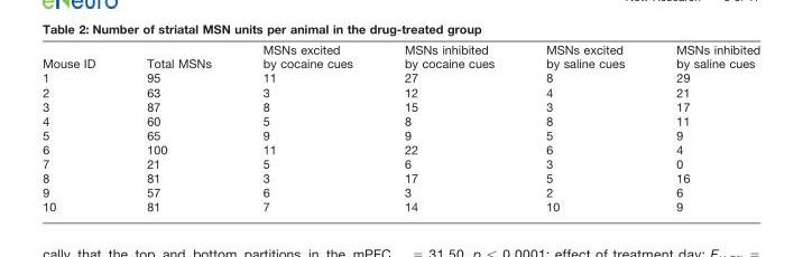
<table><thead><tr><td>Mouse ID</td><td>Total MSNs</td><td>MSNs excited by cocaine cues</td><td>MSNs inhibited by cocaine cues</td><td>MSNs excited by saline cues</td><td>MSNs inhibited by saline cues</td></tr></thead><tbody><tr><td>1</td><td>95</td><td>11</td><td>27</td><td>8</td><td>29</td></tr><tr><td>2</td><td>63</td><td>3</td><td>12</td><td>4</td><td>21</td></tr><tr><td>3</td><td>87</td><td>8</td><td>15</td><td>3</td><td>17</td></tr><tr><td>4</td><td>60</td><td>5</td><td>8</td><td>8</td><td>11</td></tr><tr><td>5</td><td>65</td><td>9</td><td>9</td><td>5</td><td>9</td></tr><tr><td>6</td><td>100</td><td>11</td><td>22</td><td>6</td><td>4</td></tr><tr><td>7</td><td>21</td><td>5</td><td>6</td><td>3</td><td>0</td></tr><tr><td>8</td><td>81</td><td>3</td><td>17</td><td>5</td><td>16</td></tr><tr><td>9</td><td>57</td><td>6</td><td>3</td><td>2</td><td>6</td></tr><tr><td>10</td><td>81</td><td>7</td><td>14</td><td>10</td><td>9</td></tr></tbody></table>